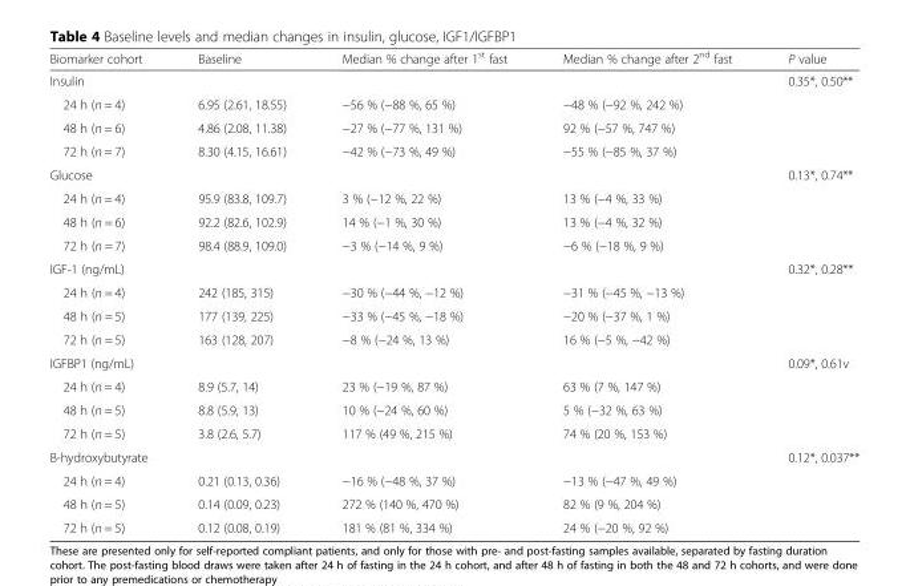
<table><thead><tr><td>Biomarker cohort</td><td>Baseline</td><td>Median % change after 1<sup>st</sup> fast</td><td>Median % change after 2<sup>nd</sup> fast</td><td>P value</td></tr></thead><tbody><tr><td colspan="4">Insulin</td><td rowspan="4">0.35*, 0.50**</td></tr><tr><td>24 h (n = 4)</td><td>6.95 (2.61, 18.55)</td><td>−56 % (−88 %, 65 %)</td><td>−48 % (−92 %, 242 %)</td></tr><tr><td>48 h (n = 6)</td><td>4.86 (2.08, 11.38)</td><td>−27 % (−77 %, 131 %)</td><td>92 % (−57 %, 747 %)</td></tr><tr><td>72 h (n = 7)</td><td>8.30 (4.15, 16.61)</td><td>−42 % (−73 %, 49 %)</td><td>−55 % (−85 %, 37 %)</td></tr><tr><td colspan="4">Glucose</td><td rowspan="4">0.13*, 0.74**</td></tr><tr><td>24 h (n = 4)</td><td>95.9 (83.8, 109.7)</td><td>3 % (−12 %, 22 %)</td><td>13 % (−4 %, 33 %)</td></tr><tr><td>48 h (n = 6)</td><td>92.2 (82.6, 102.9)</td><td>14 % (−1 %, 30 %)</td><td>13 % (−4 %, 32 %)</td></tr><tr><td>72 h (n = 7)</td><td>98.4 (88.9, 109.0)</td><td>−3 % (−14 %, 9 %)</td><td>−6 % (−18 %, 9 %)</td></tr><tr><td colspan="4">IGF-1 (ng/mL)</td><td rowspan="4">0.32*, 0.28**</td></tr><tr><td>24 h (n = 4)</td><td>242 (185, 315)</td><td>−30 % (−44 %, −12 %)</td><td>−31 % (−45 %, −13 %)</td></tr><tr><td>48 h (n = 5)</td><td>177 (139, 225)</td><td>−33 % (−45 %, −18 %)</td><td>−20 % (−37 %, 1 %)</td></tr><tr><td>72 h (n = 5)</td><td>163 (128, 207)</td><td>−8 % (−24 %, 13 %)</td><td>16 % (−5 %, −42 %)</td></tr><tr><td colspan="4">IGFBP1 (ng/mL)</td><td rowspan="4">0.09*, 0.61v</td></tr><tr><td>24 h (n = 4)</td><td>8.9 (5.7, 14)</td><td>23 % (−19 %, 87 %)</td><td>63 % (7 %, 147 %)</td></tr><tr><td>48 h (n = 5)</td><td>8.8 (5.9, 13)</td><td>10 % (−24 %, 60 %)</td><td>5 % (−32 %, 63 %)</td></tr><tr><td>72 h (n = 5)</td><td>3.8 (2.6, 5.7)</td><td>117 % (49 %, 215 %)</td><td>74 % (20 %, 153 %)</td></tr><tr><td colspan="4">B-hydroxybutyrate</td><td rowspan="4">0.12*, 0.037**</td></tr><tr><td>24 h (n = 4)</td><td>0.21 (0.13, 0.36)</td><td>−16 % (−48 %, 37 %)</td><td>−13 % (−47 %, 49 %)</td></tr><tr><td>48 h (n = 5)</td><td>0.14 (0.09, 0.23)</td><td>272 % (140 %, 470 %)</td><td>82 % (9 %, 204 %)</td></tr><tr><td>72 h (n = 5)</td><td>0.12 (0.08, 0.19)</td><td>181 % (81 %, 334 %)</td><td>24 % (−20 %, 92 %)</td></tr></tbody></table>